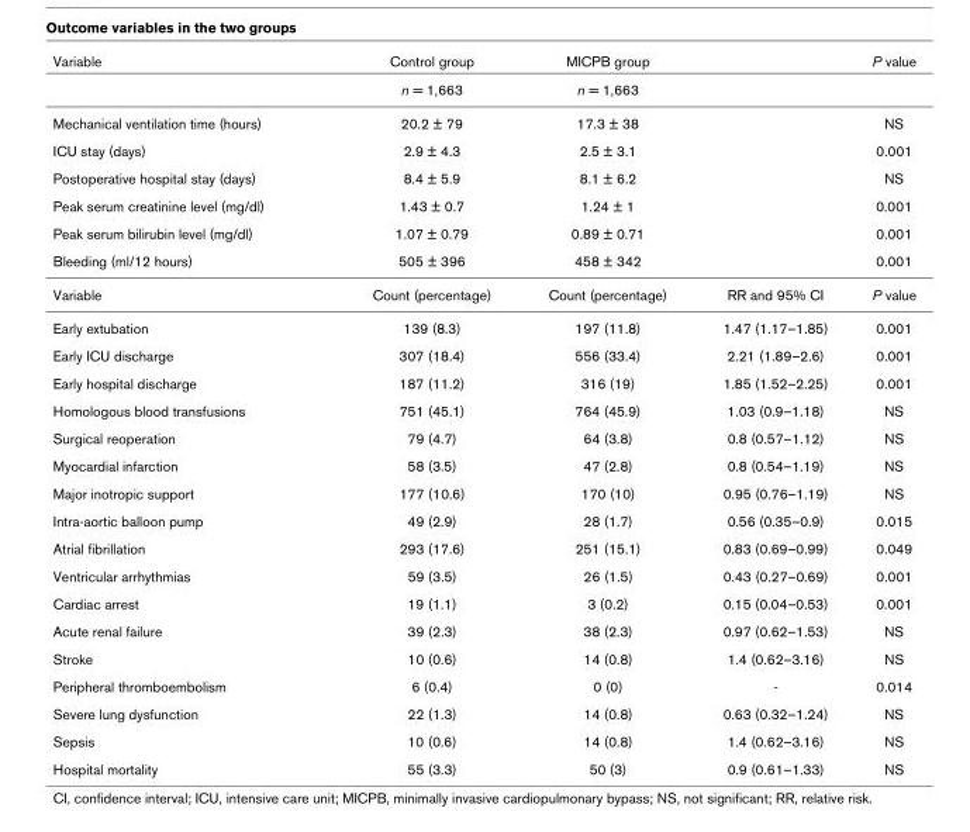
<table><thead><tr><td>Variable</td><td>Control group</td><td>MICPB group</td><td></td><td>P value</td></tr></thead><tbody><tr><td></td><td>n = 1,663</td><td>n = 1,663</td><td></td><td></td></tr><tr><td>Mechanical ventilation time (hours)</td><td>20.2 ± 79</td><td>17.3 ± 38</td><td></td><td>NS</td></tr><tr><td>ICU stay (days)</td><td>2.9 ± 4.3</td><td>2.5 ± 3.1</td><td></td><td>0.001</td></tr><tr><td>Postoperative hospital stay (days)</td><td>8.4 ± 5.9</td><td>8.1 ± 6.2</td><td></td><td>NS</td></tr><tr><td>Peak serum creatinine level (mg/dl)</td><td>1.43 ± 0.7</td><td>1.24 ± 1</td><td></td><td>0.001</td></tr><tr><td>Peak serum bilirubin level (mg/dl)</td><td>1.07 ± 0.79</td><td>0.89 ± 0.71</td><td></td><td>0.001</td></tr><tr><td>Bleeding (ml/12 hours)</td><td>505 ± 396</td><td>458 ± 342</td><td></td><td>0.001</td></tr><tr><td>Variable</td><td>Count (percentage)</td><td>Count (percentage)</td><td>RR and 95% CI</td><td>P value</td></tr><tr><td>Early extubation</td><td>139 (8.3)</td><td>197 (11.8)</td><td>1.47 (1.17–1.85)</td><td>0.001</td></tr><tr><td>Early ICU discharge</td><td>307 (18.4)</td><td>556 (33.4)</td><td>2.21 (1.89–2.6)</td><td>0.001</td></tr><tr><td>Early hospital discharge</td><td>187 (11.2)</td><td>316 (19)</td><td>1.85 (1.52–2.25)</td><td>0.001</td></tr><tr><td>Homologous blood transfusions</td><td>751 (45.1)</td><td>764 (45.9)</td><td>1.03 (0.9–1.18)</td><td>NS</td></tr><tr><td>Surgical reoperation</td><td>79 (4.7)</td><td>64 (3.8)</td><td>0.8 (0.57–1.12)</td><td>NS</td></tr><tr><td>Myocardial infarction</td><td>58 (3.5)</td><td>47 (2.8)</td><td>0.8 (0.54–1.19)</td><td>NS</td></tr><tr><td>Major inotropic support</td><td>177 (10.6)</td><td>170 (10)</td><td>0.95 (0.76–1.19)</td><td>NS</td></tr><tr><td>Intra-aortic balloon pump</td><td>49 (2.9)</td><td>28 (1.7)</td><td>0.56 (0.35–0.9)</td><td>0.015</td></tr><tr><td>Atrial fibrillation</td><td>293 (17.6)</td><td>251 (15.1)</td><td>0.83 (0.69–0.99)</td><td>0.049</td></tr><tr><td>Ventricular arrhythmias</td><td>59 (3.5)</td><td>26 (1.5)</td><td>0.43 (0.27–0.69)</td><td>0.001</td></tr><tr><td>Cardiac arrest</td><td>19 (1.1)</td><td>3 (0.2)</td><td>0.15 (0.04–0.53)</td><td>0.001</td></tr><tr><td>Acute renal failure</td><td>39 (2.3)</td><td>38 (2.3)</td><td>0.97 (0.62–1.53)</td><td>NS</td></tr><tr><td>Stroke</td><td>10 (0.6)</td><td>14 (0.8)</td><td>1.4 (0.62–3.16)</td><td>NS</td></tr><tr><td>Peripheral thromboembolism</td><td>6 (0.4)</td><td>0 (0)</td><td>-</td><td>0.014</td></tr><tr><td>Severe lung dysfunction</td><td>22 (1.3)</td><td>14 (0.8)</td><td>0.63 (0.32–1.24)</td><td>NS</td></tr><tr><td>Sepsis</td><td>10 (0.6)</td><td>14 (0.8)</td><td>1.4 (0.62–3.16)</td><td>NS</td></tr><tr><td>Hospital mortality</td><td>55 (3.3)</td><td>50 (3)</td><td>0.9 (0.61–1.33)</td><td>NS</td></tr></tbody></table>